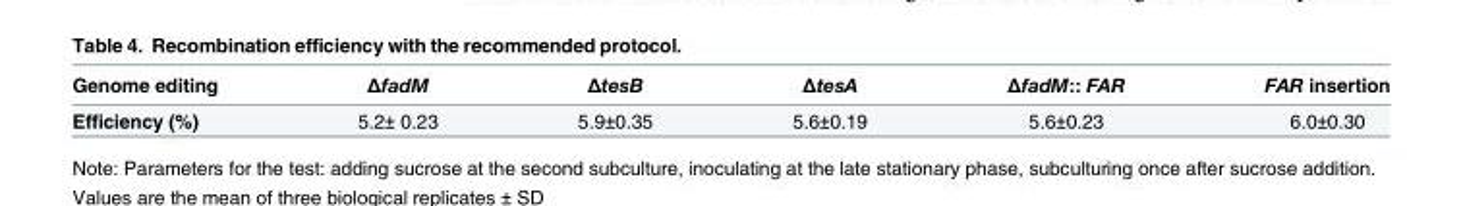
<table><thead><tr><td>Genome editing</td><td>ΔfadM</td><td>ΔtesB</td><td>ΔtesA</td><td>ΔfadM:: FAR</td><td>FAR insertion</td></tr></thead><tbody><tr><td>Efficiency (%)</td><td>5.2± 0.23</td><td>5.9±0.35</td><td>5.6±0.19</td><td>5.6±0.23</td><td>6.0±0.30</td></tr></tbody></table>